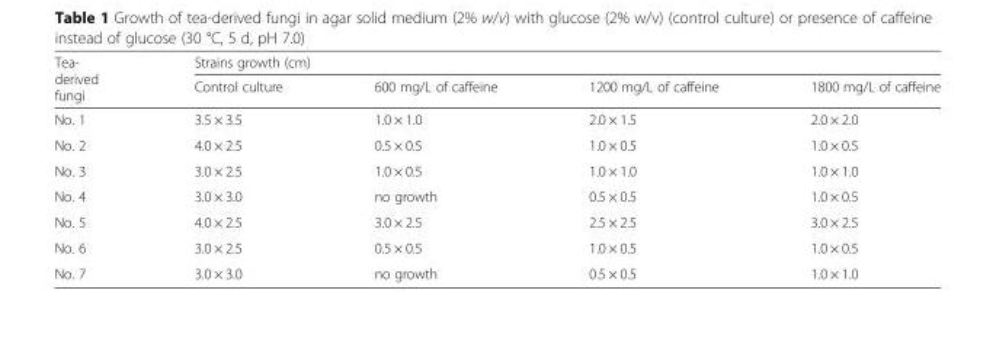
<table><thead><tr><td rowspan="2">Tea- derived fungi</td><td colspan="4">Strains growth (cm)</td></tr><tr><td>Control culture</td><td>600 mg/L of caffeine</td><td>1200 mg/L of caffeine</td><td>1800 mg/L of caffeine</td></tr></thead><tbody><tr><td>No. 1</td><td>3.5 × 3.5</td><td>1.0 × 1.0</td><td>2.0 × 1.5</td><td>2.0 × 2.0</td></tr><tr><td>No. 2</td><td>4.0 × 2.5</td><td>0.5 × 0.5</td><td>1.0 × 0.5</td><td>1.0 × 0.5</td></tr><tr><td>No. 3</td><td>3.0 × 2.5</td><td>1.0 × 0.5</td><td>1.0 × 1.0</td><td>1.0 × 1.0</td></tr><tr><td>No. 4</td><td>3.0 × 3.0</td><td>no growth</td><td>0.5 × 0.5</td><td>1.0 × 0.5</td></tr><tr><td>No. 5</td><td>4.0 × 2.5</td><td>3.0 × 2.5</td><td>2.5 × 2.5</td><td>3.0 × 2.5</td></tr><tr><td>No. 6</td><td>3.0 × 2.5</td><td>0.5 × 0.5</td><td>1.0 × 0.5</td><td>1.0 × 0.5</td></tr><tr><td>No. 7</td><td>3.0 × 3.0</td><td>no growth</td><td>0.5 × 0.5</td><td>1.0 × 1.0</td></tr></tbody></table>